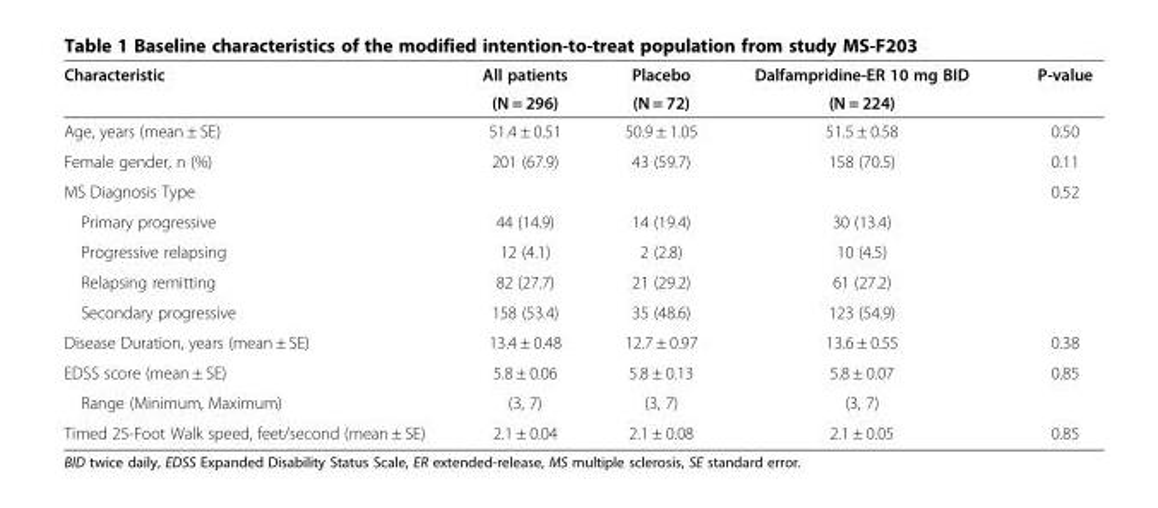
<table><thead><tr><td rowspan="2">Characteristic</td><td rowspan="2">All patients (N = 296)</td><td rowspan="2">Placebo (N = 72)</td><td rowspan="2">Dalfampridine-ER 10 mg BID (N = 224)</td><td rowspan="2">P-value</td></tr><tr></tr></thead><tbody><tr><td>Age, years (mean ± SE)</td><td>51.4 ± 0.51</td><td>50.9 ± 1.05</td><td>51.5 ± 0.58</td><td>0.50</td></tr><tr><td>Female gender, n (%)</td><td>201 (67.9)</td><td>43 (59.7)</td><td>158 (70.5)</td><td>0.11</td></tr><tr><td>MS Diagnosis Type</td><td></td><td></td><td></td><td>0.52</td></tr><tr><td>Primary progressive</td><td>44 (14.9)</td><td>14 (19.4)</td><td>30 (13.4)</td><td></td></tr><tr><td>Progressive relapsing</td><td>12 (4.1)</td><td>2 (2.8)</td><td>10 (4.5)</td><td></td></tr><tr><td>Relapsing remitting</td><td>82 (27.7)</td><td>21 (29.2)</td><td>61 (27.2)</td><td></td></tr><tr><td>Secondary progressive</td><td>158 (53.4)</td><td>35 (48.6)</td><td>123 (54.9)</td><td></td></tr><tr><td>Disease Duration, years (mean ± SE)</td><td>13.4 ± 0.48</td><td>12.7 ± 0.97</td><td>13.6 ± 0.55</td><td>0.38</td></tr><tr><td>EDSS score (mean ± SE)</td><td>5.8 ± 0.06</td><td>5.8 ± 0.13</td><td>5.8 ± 0.07</td><td>0.85</td></tr><tr><td>Range (Minimum, Maximum)</td><td>(3, 7)</td><td>(3, 7)</td><td>(3, 7)</td><td></td></tr><tr><td>Timed 25-Foot Walk speed, feet/second (mean ± SE)</td><td>2.1 ± 0.04</td><td>2.1 ± 0.08</td><td>2.1 ± 0.05</td><td>0.85</td></tr></tbody></table>